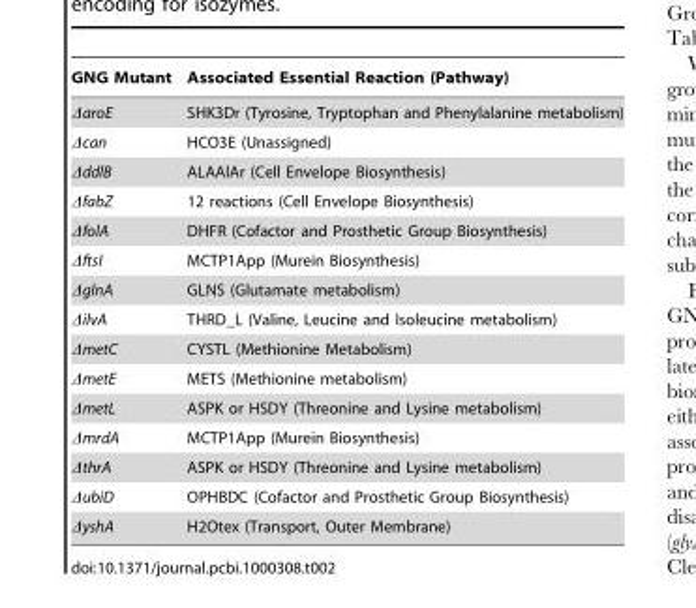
<table><thead><tr><td>GNG Mutant</td><td>Associated Essential Reaction (Pathway)</td></tr></thead><tbody><tr><td>ΔaroE</td><td>SHK3Dr (Tyrosine, Tryptophan and Phenylalanine metabolism)</td></tr><tr><td>Δcan</td><td>HCO3E (Unassigned)</td></tr><tr><td>ΔddlB</td><td>ALAAlAr (Cell Envelope Biosynthesis)</td></tr><tr><td>ΔfabZ</td><td>12 reactions (Cell Envelope Biosynthesis)</td></tr><tr><td>ΔfolA</td><td>DHFR (Cofactor and Prosthetic Group Biosynthesis)</td></tr><tr><td>ΔftsI</td><td>MCTP1App (Murein Biosynthesis)</td></tr><tr><td>ΔglnA</td><td>GLNS (Glutamate metabolism)</td></tr><tr><td>ΔilvA</td><td>THRD_L (Valine, Leucine and Isoleucine metabolism)</td></tr><tr><td>ΔmetC</td><td>CYSTL (Methionine Metabolism)</td></tr><tr><td>ΔmetE</td><td>METS (Methionine metabolism)</td></tr><tr><td>ΔmetL</td><td>ASPK or HSDY (Threonine and Lysine metabolism)</td></tr><tr><td>ΔmrdA</td><td>MCTP1App (Murein Biosynthesis)</td></tr><tr><td>ΔthrA</td><td>ASPK or HSDY (Threonine and Lysine metabolism)</td></tr><tr><td>ΔubiD</td><td>OPHBDC (Cofactor and Prosthetic Group Biosynthesis)</td></tr><tr><td>ΔyshA</td><td>H2Otex (Transport, Outer Membrane)</td></tr></tbody></table>